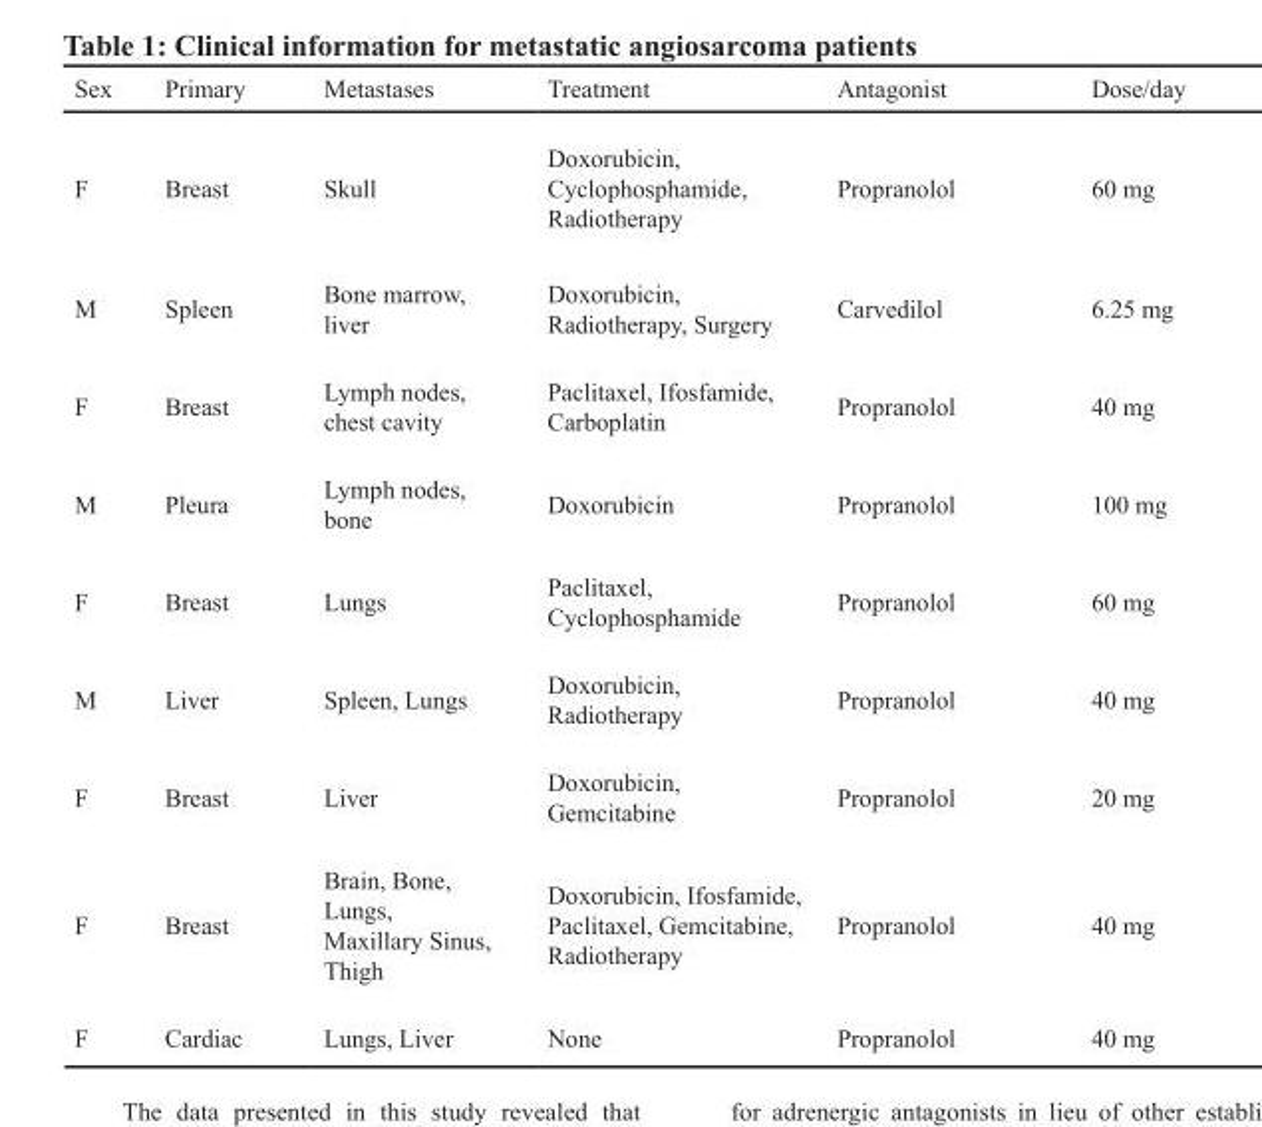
<table><thead><tr><td>Sex</td><td>Primary</td><td>Metastases</td><td>Treatment</td><td>Antagonist</td><td>Dose/day</td></tr></thead><tbody><tr><td>F</td><td>Breast</td><td>Skull</td><td>Doxorubicin, Cyclophosphamide, Radiotherapy</td><td>Propranolol</td><td>60 mg</td></tr><tr><td>M</td><td>Spleen</td><td>Bone marrow, liver</td><td>Doxorubicin, Radiotherapy, Surgery</td><td>Carvedilol</td><td>6.25 mg</td></tr><tr><td>F</td><td>Breast</td><td>Lymph nodes, chest cavity</td><td>Paclitaxel, Ifosfamide, Carboplatin</td><td>Propranolol</td><td>40 mg</td></tr><tr><td>M</td><td>Pleura</td><td>Lymph nodes, bone</td><td>Doxorubicin</td><td>Propranolol</td><td>100 mg</td></tr><tr><td>F</td><td>Breast</td><td>Lungs</td><td>Paclitaxel, Cyclophosphamide</td><td>Propranolol</td><td>60 mg</td></tr><tr><td>M</td><td>Liver</td><td>Spleen, Lungs</td><td>Doxorubicin, Radiotherapy</td><td>Propranolol</td><td>40 mg</td></tr><tr><td>F</td><td>Breast</td><td>Liver</td><td>Doxorubicin, Gemcitabine</td><td>Propranolol</td><td>20 mg</td></tr><tr><td>F</td><td>Breast</td><td>Brain, Bone, Lungs, Maxillary Sinus, Thigh</td><td>Doxorubicin, Ifosfamide, Paclitaxel, Gemcitabine, Radiotherapy</td><td>Propranolol</td><td>40 mg</td></tr><tr><td>F</td><td>Cardiac</td><td>Lungs, Liver</td><td>None</td><td>Propranolol</td><td>40 mg</td></tr></tbody></table>